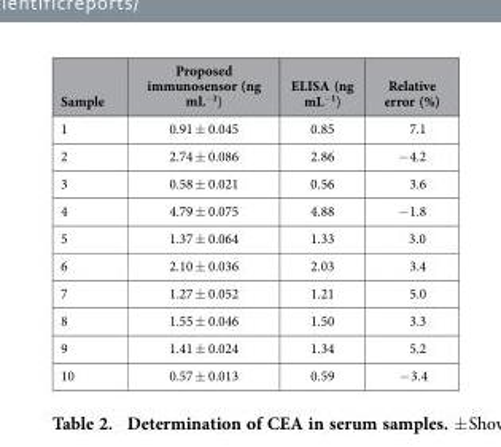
<table><thead><tr><td>Sample</td><td>Proposed immunosensor (ng mL<sup>−1</sup>)</td><td>ELISA (ng mL<sup>−1</sup>)</td><td>Relative error (%)</td></tr></thead><tbody><tr><td>1</td><td>0.91 ± 0.045</td><td>0.85</td><td>7.1</td></tr><tr><td>2</td><td>2.74 ± 0.086</td><td>2.86</td><td>− 4.2</td></tr><tr><td>3</td><td>0.58 ± 0.021</td><td>0.56</td><td>3.6</td></tr><tr><td>4</td><td>4.79 ± 0.075</td><td>4.88</td><td>− 1.8</td></tr><tr><td>5</td><td>1.37 ± 0.064</td><td>1.33</td><td>3.0</td></tr><tr><td>6</td><td>2.10 ± 0.036</td><td>2.03</td><td>3.4</td></tr><tr><td>7</td><td>1.27 ± 0.052</td><td>1.21</td><td>5.0</td></tr><tr><td>8</td><td>1.55 ± 0.046</td><td>1.50</td><td>3.3</td></tr><tr><td>9</td><td>1.41 ± 0.024</td><td>1.34</td><td>5.2</td></tr><tr><td>10</td><td>0.57 ± 0.013</td><td>0.59</td><td>− 3.4</td></tr></tbody></table>